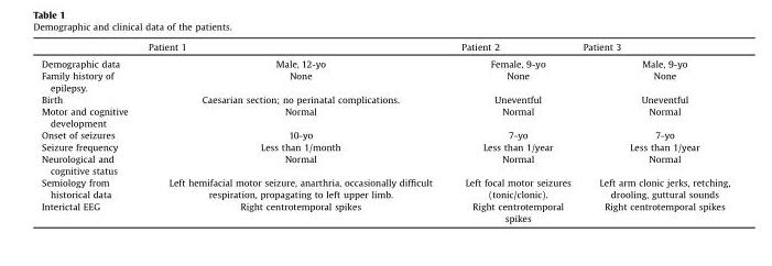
<table><thead><tr><td></td><td>Patient 1</td><td>Patient 2</td><td>Patient 3</td></tr></thead><tbody><tr><td>Demographic data</td><td>Male, 12-yo</td><td>Female, 9-yo</td><td>Male, 9-yo</td></tr><tr><td>Family history of epilepsy.</td><td>None</td><td>None</td><td>None</td></tr><tr><td>Birth</td><td>Caesarian section; no perinatal complications.</td><td>Uneventful</td><td>Uneventful</td></tr><tr><td>Motor and cognitive development</td><td>Normal</td><td>Normal</td><td>Normal</td></tr><tr><td>Onset of seizures</td><td>10-yo</td><td>7-yo</td><td>7-yo</td></tr><tr><td>Seizure frequency</td><td>Less than 1/month</td><td>Less than 1/year</td><td>Less than 1/year</td></tr><tr><td>Neurological and cognitive status</td><td>Normal</td><td>Normal</td><td>Normal</td></tr><tr><td>Semiology from historical data</td><td>Left hemifacial motor seizure, anarthria, occasionally difficult respiration, propagating to left upper limb.</td><td>Left focal motor seizures (tonic/clonic).</td><td>Left arm clonic jerks, retching, drooling, guttural sounds</td></tr><tr><td>Interictal EEG</td><td>Right centrotemporal spikes</td><td>Right centrotemporal spikes</td><td>Right centrotemporal spikes</td></tr></tbody></table>